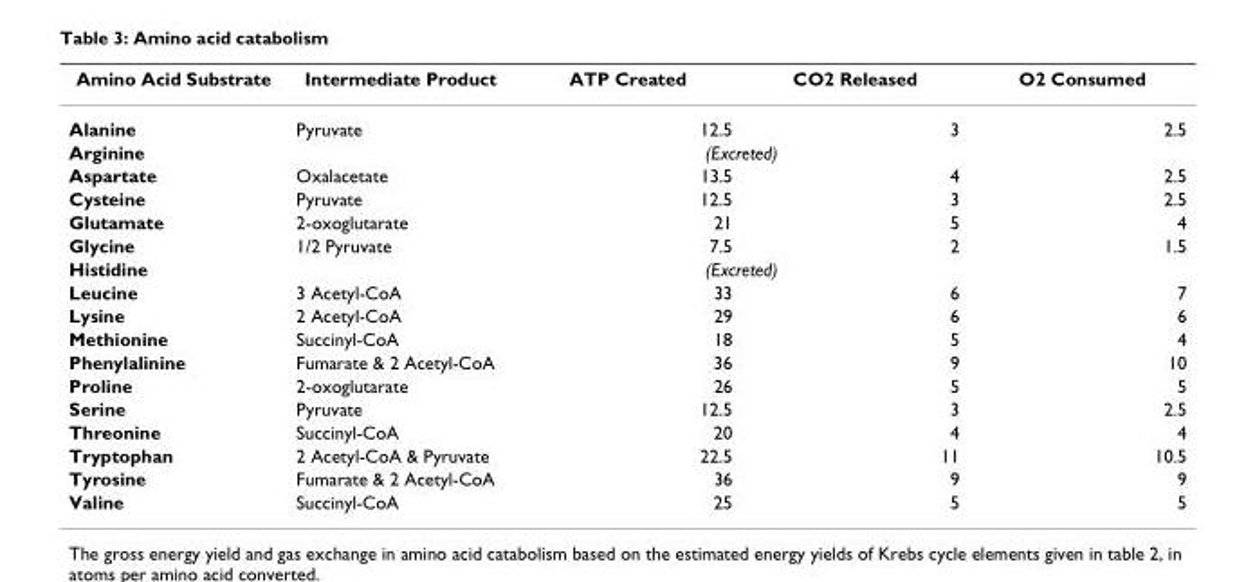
<table><thead><tr><td>Amino Acid Substrate</td><td>Intermediate Product</td><td>ATP Created</td><td>CO2 Released</td><td>O2 Consumed</td></tr></thead><tbody><tr><td>Alanine</td><td>Pyruvate</td><td>12.5</td><td>3</td><td>2.5</td></tr><tr><td>Arginine</td><td colspan="4">(Excreted)</td></tr><tr><td>Aspartate</td><td>Oxalacetate</td><td>13.5</td><td>4</td><td>2.5</td></tr><tr><td>Cysteine</td><td>Pyruvate</td><td>12.5</td><td>3</td><td>2.5</td></tr><tr><td>Glutamate</td><td>2-oxoglutarate</td><td>21</td><td>5</td><td>4</td></tr><tr><td>Glycine</td><td>1/2 Pyruvate</td><td>7.5</td><td>2</td><td>1.5</td></tr><tr><td>Histidine</td><td colspan="4">(Excreted)</td></tr><tr><td>Leucine</td><td>3 Acetyl-CoA</td><td>33</td><td>6</td><td>7</td></tr><tr><td>Lysine</td><td>2 Acetyl-CoA</td><td>29</td><td>6</td><td>6</td></tr><tr><td>Methionine</td><td>Succinyl-CoA</td><td>18</td><td>5</td><td>4</td></tr><tr><td>Phenylalinine</td><td>Fumarate &amp; 2 Acetyl-CoA</td><td>36</td><td>9</td><td>10</td></tr><tr><td>Proline</td><td>2-oxoglutarate</td><td>26</td><td>5</td><td>5</td></tr><tr><td>Serine</td><td>Pyruvate</td><td>12.5</td><td>3</td><td>2.5</td></tr><tr><td>Threonine</td><td>Succinyl-CoA</td><td>20</td><td>4</td><td>4</td></tr><tr><td>Tryptophan</td><td>2 Acetyl-CoA &amp; Pyruvate</td><td>22.5</td><td>11</td><td>10.5</td></tr><tr><td>Tyrosine</td><td>Fumarate &amp; 2 Acetyl-CoA</td><td>36</td><td>9</td><td>9</td></tr><tr><td>Valine</td><td>Succinyl-CoA</td><td>25</td><td>5</td><td>5</td></tr></tbody></table>